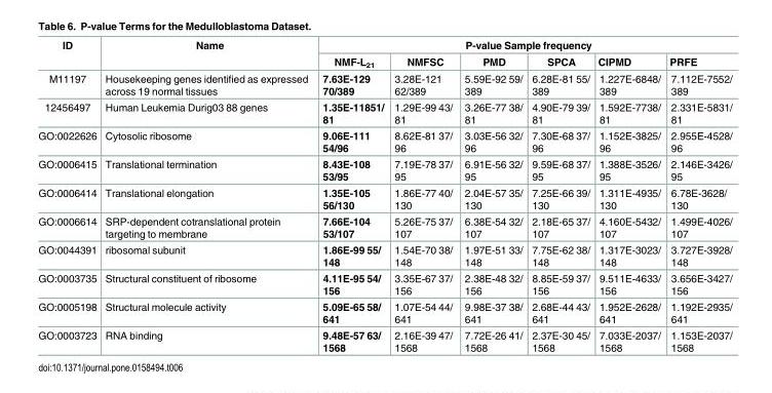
<table><thead><tr><td rowspan="2">ID</td><td rowspan="2">Name</td><td colspan="6">P-value Sample frequency</td></tr><tr><td>NMF-L<sub>21</sub></td><td>NMFSC</td><td>PMD</td><td>SPCA</td><td>CIPMD</td><td>PRFE</td></tr></thead><tbody><tr><td>M11197</td><td>Housekeeping genes identified as expressed across 19 normal tissues</td><td>7.63E-129 70/389</td><td>3.28E-121 62/389</td><td>5.59E-92 59/ 389</td><td>6.28E-81 55/ 389</td><td>1.227E-6848/ 389</td><td>7.112E-7552/ 389</td></tr><tr><td>12456497</td><td>Human Leukemia Durig03 88 genes</td><td>1.35E-11851/ 81</td><td>1.29E-99 43/ 81</td><td>3.26E-77 38/ 81</td><td>4.90E-79 39/ 81</td><td>1.592E-7738/ 81</td><td>2.331E-5831/ 81</td></tr><tr><td>GO:0022626</td><td>Cytosolic ribosome</td><td>9.06E-111 54/96</td><td>8.62E-81 37/ 96</td><td>3.03E-56 32/ 96</td><td>7.30E-68 37/ 96</td><td>1.152E-3825/ 96</td><td>2.955E-4528/ 96</td></tr><tr><td>GO:0006415</td><td>Translational termination</td><td>8.43E-108 53/95</td><td>7.19E-78 37/ 95</td><td>6.91E-56 32/ 95</td><td>9.59E-68 37/ 95</td><td>1.388E-3526/ 95</td><td>2.146E-3426/ 95</td></tr><tr><td>GO:0006414</td><td>Translational elongation</td><td>1.35E-105 56/130</td><td>1.86E-77 40/ 130</td><td>2.04E-57 35/ 130</td><td>7.25E-66 39/ 130</td><td>1.311E-4935/ 130</td><td>6.78E-3628/ 130</td></tr><tr><td>GO:0006614</td><td>SRP-dependent cotranslational protein targeting to membrane</td><td>7.66E-104 53/107</td><td>5.26E-75 37/ 107</td><td>6.38E-54 32/ 107</td><td>2.18E-65 37/ 107</td><td>4.160E-5432/ 107</td><td>1.499E-4026/ 107</td></tr><tr><td>GO:0044391</td><td>ribosomal subunit</td><td>1.86E-99 55/ 148</td><td>1.54E-70 38/ 148</td><td>1.97E-51 33/ 148</td><td>7.75E-62 38/ 148</td><td>1.317E-3023/ 148</td><td>3.727E-3928/ 148</td></tr><tr><td>GO:0003735</td><td>Structural constituent of ribosome</td><td>4.11E-95 54/ 156</td><td>3.35E-67 37/ 156</td><td>2.38E-48 32/ 156</td><td>8.85E-59 37/ 156</td><td>9.511E-4633/ 156</td><td>3.656E-3427/ 156</td></tr><tr><td>GO:0005198</td><td>Structural molecule activity</td><td>5.09E-65 58/ 641</td><td>1.07E-54 44/ 641</td><td>9.98E-37 38/ 641</td><td>2.68E-44 43/ 641</td><td>1.952E-2628/ 641</td><td>1.192E-2935/ 641</td></tr><tr><td>GO:0003723</td><td>RNA binding</td><td>9.48E-57 63/ 1568</td><td>2.16E-39 47/ 1568</td><td>7.72E-26 41/ 1568</td><td>2.37E-30 45/ 1568</td><td>7.033E-2037/ 1568</td><td>1.153E-2037/ 1568</td></tr></tbody></table>